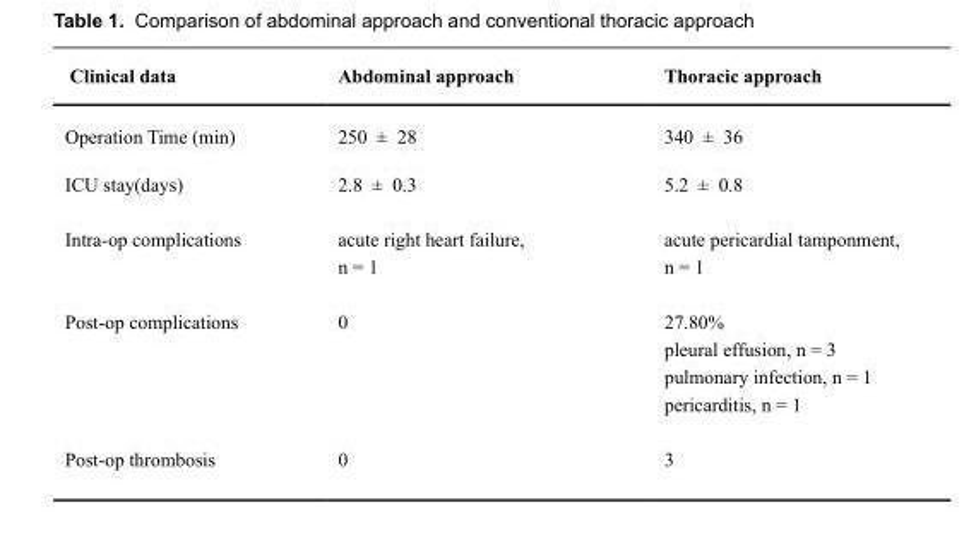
<table><thead><tr><td>Clinical data</td><td>Abdominal approach</td><td>Thoracic approach</td></tr></thead><tbody><tr><td>Operation Time (min)</td><td>250 ± 28</td><td>340 ± 36</td></tr><tr><td>ICU stay(days)</td><td>2.8 ± 0.3</td><td>5.2 ± 0.8</td></tr><tr><td>Intra-op complications</td><td>acute right heart failure, n = 1</td><td>acute pericardial tamponment, n = 1</td></tr><tr><td rowspan="4">Post-op complications</td><td>0</td><td>27.80%</td></tr><tr><td></td><td>pleural effusion, n = 3</td></tr><tr><td></td><td>pulmonary infection, n = 1</td></tr><tr><td></td><td>pericarditis, n = 1</td></tr><tr><td>Post-op thrombosis</td><td>0</td><td>3</td></tr></tbody></table>